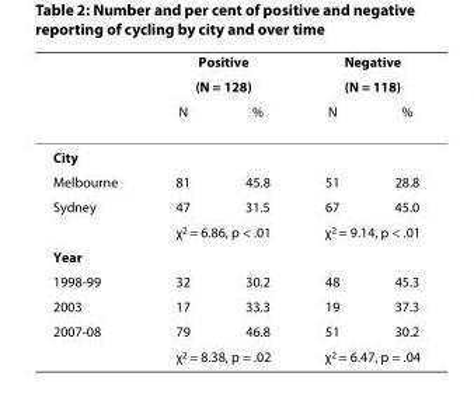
<table><thead><tr><td rowspan="3"></td><td rowspan="2" colspan="2">Positive (N = 128)</td><td rowspan="2" colspan="2">Negative (N = 118)</td></tr><tr></tr><tr><td>N</td><td>%</td><td>N</td><td>%</td></tr></thead><tbody><tr><td colspan="5">City</td></tr><tr><td>Melbourne</td><td>81</td><td>45.8</td><td>51</td><td>28.8</td></tr><tr><td rowspan="2">Sydney</td><td>47</td><td>31.5</td><td>67</td><td>45.0</td></tr><tr><td colspan="2">χ<sup>2</sup> = 6.86, p &lt; .01</td><td colspan="2">χ<sup>2</sup> = 9.14, p &lt; .01</td></tr><tr><td colspan="5">Year</td></tr><tr><td>1998-99</td><td>32</td><td>30.2</td><td>48</td><td>45.3</td></tr><tr><td>2003</td><td>17</td><td>33.3</td><td>19</td><td>37.3</td></tr><tr><td rowspan="2">2007-08</td><td>79</td><td>46.8</td><td>51</td><td>30.2</td></tr><tr><td colspan="2">χ<sup>2</sup> = 8.38, p = .02</td><td colspan="2">χ<sup>2</sup> = 6.47, p = .04</td></tr></tbody></table>